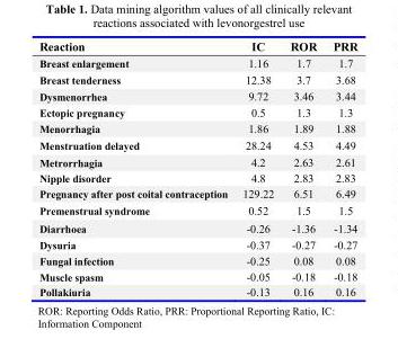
<table><thead><tr><td>Reaction</td><td>IC</td><td>ROR</td><td>PRR</td></tr></thead><tbody><tr><td>Breast enlargement</td><td>1.16</td><td>1.7</td><td>1.7</td></tr><tr><td>Breast tenderness</td><td>12.38</td><td>3.7</td><td>3.68</td></tr><tr><td>Dysmenorrhea</td><td>9.72</td><td>3.46</td><td>3.44</td></tr><tr><td>Ectopic pregnancy</td><td>0.5</td><td>1.3</td><td>1.3</td></tr><tr><td>Menorrhagia</td><td>1.86</td><td>1.89</td><td>1.88</td></tr><tr><td>Menstruation delayed</td><td>28.24</td><td>4.53</td><td>4.49</td></tr><tr><td>Metrorrhagia</td><td>4.2</td><td>2.63</td><td>2.61</td></tr><tr><td>Nipple disorder</td><td>4.8</td><td>2.83</td><td>2.83</td></tr><tr><td>Pregnancy after post coital contraception</td><td>129.22</td><td>6.51</td><td>6.49</td></tr><tr><td>Premenstrual syndrome</td><td>0.52</td><td>1.5</td><td>1.5</td></tr><tr><td>Diarrhoea</td><td>-0.26</td><td>-1.36</td><td>-1.34</td></tr><tr><td>Dysuria</td><td>-0.37</td><td>-0.27</td><td>-0.27</td></tr><tr><td>Fungal infection</td><td>-0.25</td><td>0.08</td><td>0.08</td></tr><tr><td>Muscle spasm</td><td>-0.05</td><td>-0.18</td><td>-0.18</td></tr><tr><td>Pollakiuria</td><td>-0.13</td><td>0.16</td><td>0.16</td></tr></tbody></table>